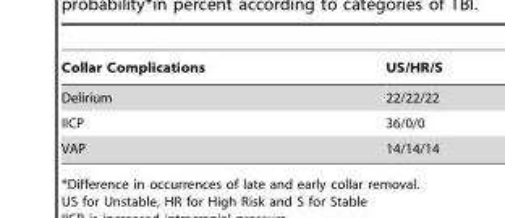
<table><thead><tr><td>Collar Complications</td><td>US/HR/S</td></tr></thead><tbody><tr><td>Delirium</td><td>22/22/22</td></tr><tr><td>IICP</td><td>36/0/0</td></tr><tr><td>VAP</td><td>14/14/14</td></tr></tbody></table>